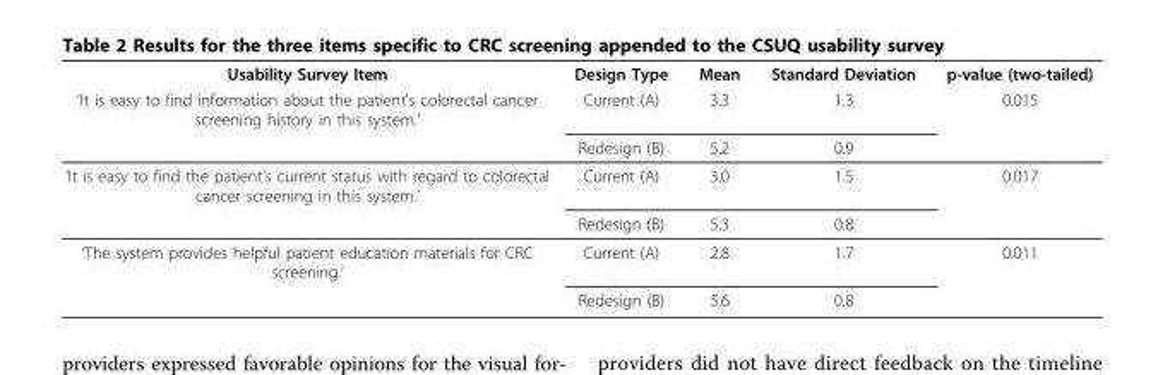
<table><thead><tr><td rowspan="3">Usability Survey Item ‘It is easy to find information about the patient’s colorectal cancer screening history in this system.’</td><td rowspan="3">Design Type Current (A) Redesign (B)</td><td rowspan="3">Mean 3.3 5.2</td><td rowspan="3">Standard Deviation 1.3 0.9</td><td rowspan="3">p-value (two-tailed) 0.015</td></tr><tr></tr><tr></tr></thead><tbody><tr><td rowspan="2">‘It is easy to find the patient’s current status with regard to colorectal cancer screening in this system.’</td><td>Current (A)</td><td>3.0</td><td>1.5</td><td>0.017</td></tr><tr><td>Redesign (B)</td><td>5.3</td><td>0.8</td><td></td></tr><tr><td rowspan="2">‘The system provides helpful patient education materials for CRC screening.’</td><td>Current (A)</td><td>2.8</td><td>1.7</td><td>0.011</td></tr><tr><td>Redesign (B)</td><td>5.6</td><td>0.8</td><td></td></tr></tbody></table>